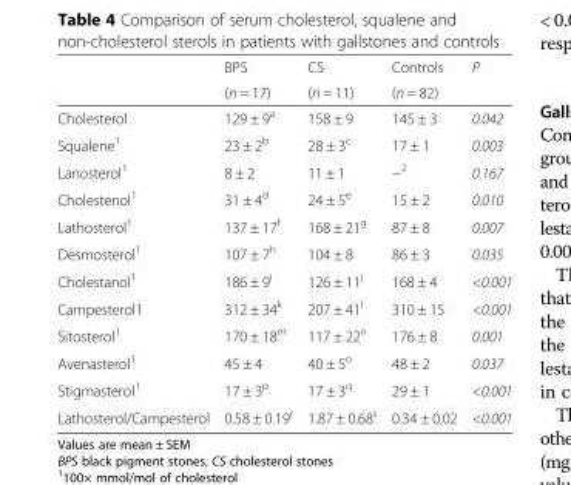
<table><thead><tr><td rowspan="2"></td><td rowspan="2">BPS (n = 17)</td><td rowspan="2">CS (n = 11)</td><td rowspan="2">Controls (n = 82)</td><td rowspan="2">P</td></tr><tr></tr></thead><tbody><tr><td>Cholesterol</td><td>129 ± 9<sup>a</sup></td><td>158 ± 9</td><td>145 ± 3</td><td>0.042</td></tr><tr><td>Squalene<sup>1</sup></td><td>23 ± 2<sup>b</sup></td><td>28 ± 3<sup>c</sup></td><td>17 ± 1</td><td>0.003</td></tr><tr><td>Lanosterol<sup>1</sup></td><td>8 ± 2</td><td>11 ± 1</td><td>−<sup>2</sup></td><td>0.167</td></tr><tr><td>Cholestenol<sup>1</sup></td><td>31 ± 4<sup>d</sup></td><td>24 ± 5<sup>e</sup></td><td>15 ± 2</td><td>0.010</td></tr><tr><td>Lathosterol<sup>1</sup></td><td>137 ± 17<sup>f</sup></td><td>168 ± 21<sup>g</sup></td><td>87 ± 8</td><td>0.007</td></tr><tr><td>Desmosterol<sup>1</sup></td><td>107 ± 7<sup>h</sup></td><td>104 ± 8</td><td>86 ± 3</td><td>0.035</td></tr><tr><td>Cholestanol<sup>1</sup></td><td>186 ± 9<sup>i</sup></td><td>126 ± 11<sup>j</sup></td><td>168 ± 4</td><td>&lt;0.001</td></tr><tr><td>Campesterol1</td><td>312 ± 34<sup>k</sup></td><td>207 ± 41<sup>l</sup></td><td>310 ± 15</td><td>&lt;0.001</td></tr><tr><td>Sitosterol<sup>1</sup></td><td>170 ± 18<sup>m</sup></td><td>117 ± 22<sup>n</sup></td><td>176 ± 8</td><td>0.001</td></tr><tr><td>Avenasterol<sup>1</sup></td><td>45 ± 4</td><td>40 ± 5<sup>o</sup></td><td>48 ± 2</td><td>0.037</td></tr><tr><td>Stigmasterol<sup>1</sup></td><td>17 ± 3<sup>p</sup></td><td>17 ± 3<sup>q</sup></td><td>29 ± 1</td><td>&lt;0.001</td></tr><tr><td>Lathosterol/Campesterol</td><td>0.58 ± 0.19<sup>r</sup></td><td>1.87 ± 0.68<sup>s</sup></td><td>0.34 ± 0.02</td><td>&lt;0.001</td></tr></tbody></table>